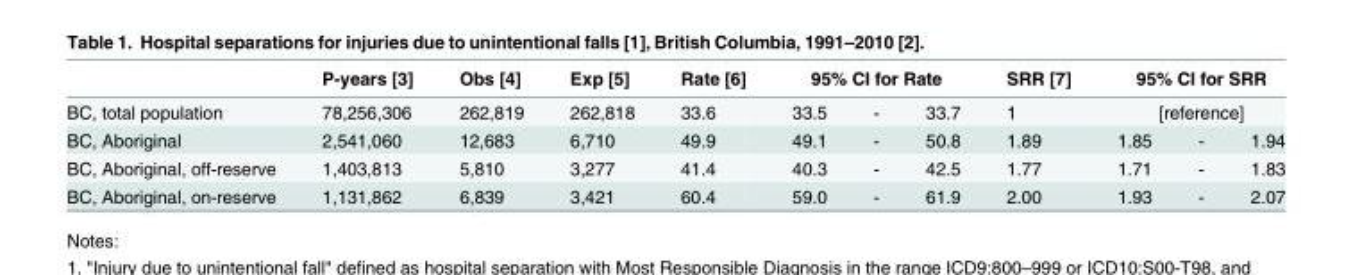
<table><thead><tr><td rowspan="3">BC, total population BC, Aboriginal</td><td rowspan="3">P-years [3] 78,256,306 2,541,060</td><td rowspan="3">Obs [4] 262,819 12,683</td><td rowspan="3">Exp [5] 262,818 6,710</td><td rowspan="3">Rate [6] 33.6 49.9</td><td colspan="3">95% CI for Rate</td><td rowspan="3">SRR [7] 1 1.89</td><td rowspan="2" colspan="3">95% CI for SRR [reference]</td></tr><tr><td rowspan="2">33.5 49.1</td><td rowspan="2">- -</td><td rowspan="2">33.7 50.8</td></tr><tr><td>1.85</td><td>-</td><td>1.94</td></tr></thead><tbody><tr><td>BC, Aboriginal, off-reserve</td><td>1,403,813</td><td>5,810</td><td>3,277</td><td>41.4</td><td>40.3</td><td>-</td><td>42.5</td><td>1.77</td><td>1.71</td><td>-</td><td>1.83</td></tr><tr><td>BC, Aboriginal, on-reserve</td><td>1,131,862</td><td>6,839</td><td>3,421</td><td>60.4</td><td>59.0</td><td>-</td><td>61.9</td><td>2.00</td><td>1.93</td><td>-</td><td>2.07</td></tr></tbody></table>